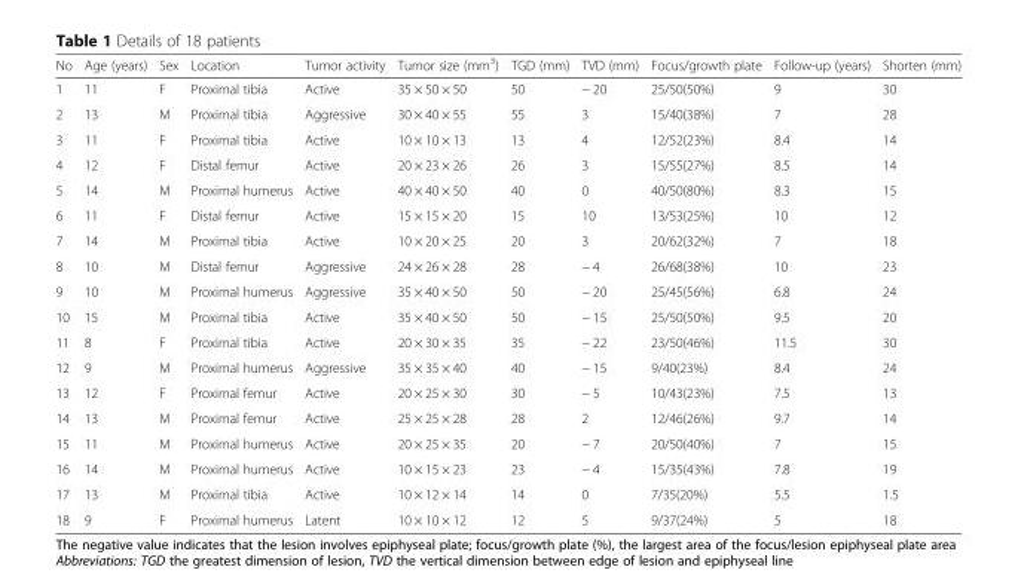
<table><thead><tr><td>No</td><td>Age (years)</td><td>Sex</td><td>Location</td><td>Tumor activity</td><td>Tumor size (mm<sup>3</sup>)</td><td>TGD (mm)</td><td>TVD (mm)</td><td>Focus/growth plate</td><td>Follow-up (years)</td><td>Shorten (mm)</td></tr></thead><tbody><tr><td>1</td><td>11</td><td>F</td><td>Proximal tibia</td><td>Active</td><td>35 × 50 × 50</td><td>50</td><td>− 20</td><td>25/50(50%)</td><td>9</td><td>30</td></tr><tr><td>2</td><td>13</td><td>M</td><td>Proximal tibia</td><td>Aggressive</td><td>30 × 40 × 55</td><td>55</td><td>3</td><td>15/40(38%)</td><td>7</td><td>28</td></tr><tr><td>3</td><td>11</td><td>F</td><td>Proximal tibia</td><td>Active</td><td>10 × 10 × 13</td><td>13</td><td>4</td><td>12/52(23%)</td><td>8.4</td><td>14</td></tr><tr><td>4</td><td>12</td><td>F</td><td>Distal femur</td><td>Active</td><td>20 × 23 × 26</td><td>26</td><td>3</td><td>15/55(27%)</td><td>8.5</td><td>14</td></tr><tr><td>5</td><td>14</td><td>M</td><td>Proximal humerus</td><td>Active</td><td>40 × 40 × 50</td><td>40</td><td>0</td><td>40/50(80%)</td><td>8.3</td><td>15</td></tr><tr><td>6</td><td>11</td><td>F</td><td>Distal femur</td><td>Active</td><td>15 × 15 × 20</td><td>15</td><td>10</td><td>13/53(25%)</td><td>10</td><td>12</td></tr><tr><td>7</td><td>14</td><td>M</td><td>Proximal tibia</td><td>Active</td><td>10 × 20 × 25</td><td>20</td><td>3</td><td>20/62(32%)</td><td>7</td><td>18</td></tr><tr><td>8</td><td>10</td><td>M</td><td>Distal femur</td><td>Aggressive</td><td>24 × 26 × 28</td><td>28</td><td>− 4</td><td>26/68(38%)</td><td>10</td><td>23</td></tr><tr><td>9</td><td>10</td><td>M</td><td>Proximal humerus</td><td>Aggressive</td><td>35 × 40 × 50</td><td>50</td><td>− 20</td><td>25/45(56%)</td><td>6.8</td><td>24</td></tr><tr><td>10</td><td>15</td><td>M</td><td>Proximal tibia</td><td>Active</td><td>35 × 40 × 50</td><td>50</td><td>− 15</td><td>25/50(50%)</td><td>9.5</td><td>20</td></tr><tr><td>11</td><td>8</td><td>F</td><td>Proximal tibia</td><td>Active</td><td>20 × 30 × 35</td><td>35</td><td>− 22</td><td>23/50(46%)</td><td>11.5</td><td>30</td></tr><tr><td>12</td><td>9</td><td>M</td><td>Proximal humerus</td><td>Aggressive</td><td>35 × 35 × 40</td><td>40</td><td>− 15</td><td>9/40(23%)</td><td>8.4</td><td>24</td></tr><tr><td>13</td><td>12</td><td>F</td><td>Proximal femur</td><td>Active</td><td>20 × 25 × 30</td><td>30</td><td>− 5</td><td>10/43(23%)</td><td>7.5</td><td>13</td></tr><tr><td>14</td><td>13</td><td>M</td><td>Proximal femur</td><td>Active</td><td>25 × 25 × 28</td><td>28</td><td>2</td><td>12/46(26%)</td><td>9.7</td><td>14</td></tr><tr><td>15</td><td>11</td><td>M</td><td>Proximal humerus</td><td>Active</td><td>20 × 25 × 35</td><td>20</td><td>− 7</td><td>20/50(40%)</td><td>7</td><td>15</td></tr><tr><td>16</td><td>14</td><td>M</td><td>Proximal humerus</td><td>Active</td><td>10 × 15 × 23</td><td>23</td><td>− 4</td><td>15/35(43%)</td><td>7.8</td><td>19</td></tr><tr><td>17</td><td>13</td><td>M</td><td>Proximal tibia</td><td>Active</td><td>10 × 12 × 14</td><td>14</td><td>0</td><td>7/35(20%)</td><td>5.5</td><td>1.5</td></tr><tr><td>18</td><td>9</td><td>F</td><td>Proximal humerus</td><td>Latent</td><td>10 × 10 × 12</td><td>12</td><td>5</td><td>9/37(24%)</td><td>5</td><td>18</td></tr></tbody></table>